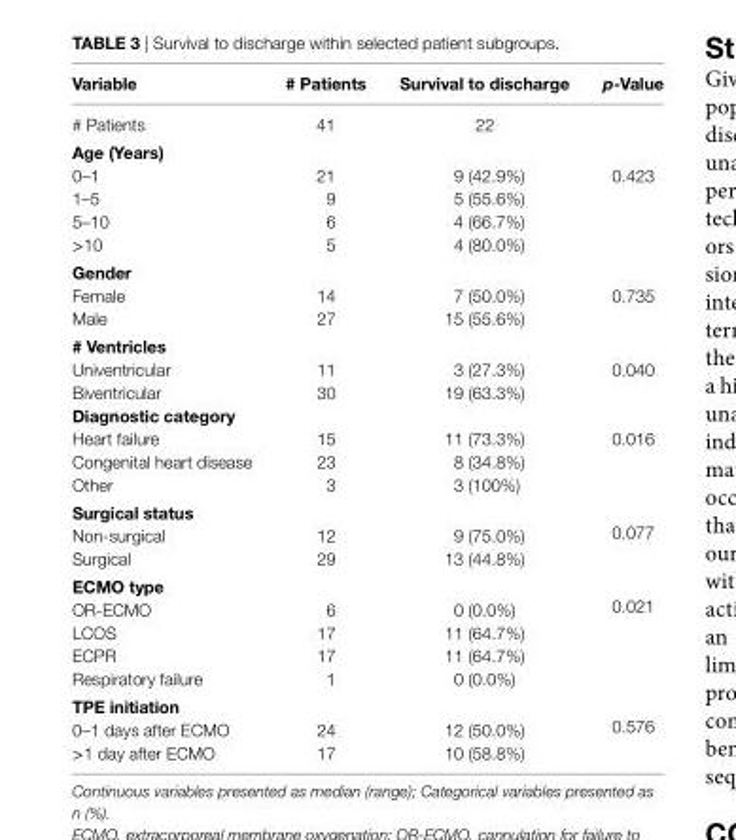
<table><thead><tr><td>Variable</td><td># Patients</td><td>survival to discharge</td><td>p-Value</td></tr></thead><tbody><tr><td># Patients</td><td>41</td><td>22</td><td></td></tr><tr><td colspan="4">age (Years)</td></tr><tr><td>0–1</td><td>21</td><td>9 (42.9%)</td><td>0.423</td></tr><tr><td>1–5</td><td>9</td><td>5 (55.6%)</td><td></td></tr><tr><td>5–10</td><td>6</td><td>4 (66.7%)</td><td></td></tr><tr><td>&gt;10</td><td>5</td><td>4 (80.0%)</td><td></td></tr><tr><td colspan="4">gender</td></tr><tr><td>Female</td><td>14</td><td>7 (50.0%)</td><td>0.735</td></tr><tr><td>Male</td><td>27</td><td>15 (55.6%)</td><td></td></tr><tr><td colspan="4"># Ventricles</td></tr><tr><td>Univentricular</td><td>11</td><td>3 (27.3%)</td><td>0.040</td></tr><tr><td>Biventricular</td><td>30</td><td>19 (63.3%)</td><td></td></tr><tr><td colspan="4">Diagnostic category</td></tr><tr><td>Heart failure</td><td>15</td><td>11 (73.3%)</td><td>0.016</td></tr><tr><td>Congenital heart disease</td><td>23</td><td>8 (34.8%)</td><td></td></tr><tr><td>Other</td><td>3</td><td>3 (100%)</td><td></td></tr><tr><td colspan="3">surgical status</td><td rowspan="3">0.077</td></tr><tr><td>Non-surgical</td><td>12</td><td>9 (75.0%)</td></tr><tr><td>Surgical</td><td>29</td><td>13 (44.8%)</td></tr><tr><td colspan="3">ecMO type</td><td rowspan="5">0.021</td></tr><tr><td>OR-ECMO</td><td>6</td><td>0 (0.0%)</td></tr><tr><td>LCOS</td><td>17</td><td>11 (64.7%)</td></tr><tr><td>ECPR</td><td>17</td><td>11 (64.7%)</td></tr><tr><td>Respiratory failure</td><td>1</td><td>0 (0.0%)</td></tr><tr><td colspan="3">TPe initiation</td><td rowspan="3">0.576</td></tr><tr><td>0–1 days after ECMO</td><td>24</td><td>12 (50.0%)</td></tr><tr><td>&gt;1 day after ECMO</td><td>17</td><td>10 (58.8%)</td></tr></tbody></table>